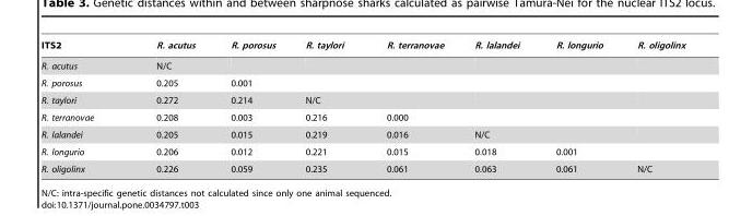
<table><thead><tr><td>ITS2</td><td>R. acutus</td><td>R. porosus</td><td>R. taylori</td><td>R. terranovae</td><td>R. lalandei</td><td>R. longurio</td><td>R. oligolinx</td></tr></thead><tbody><tr><td>R. acutus</td><td>N/C</td><td></td><td></td><td></td><td></td><td></td><td></td></tr><tr><td>R. porosus</td><td>0.205</td><td>0.001</td><td></td><td></td><td></td><td></td><td></td></tr><tr><td>R. taylori</td><td>0.272</td><td>0.214</td><td>N/C</td><td></td><td></td><td></td><td></td></tr><tr><td>R. terranovae</td><td>0.208</td><td>0.003</td><td>0.216</td><td>0.000</td><td></td><td></td><td></td></tr><tr><td>R. lalandei</td><td>0.205</td><td>0.015</td><td>0.219</td><td>0.016</td><td>N/C</td><td></td><td></td></tr><tr><td>R. longurio</td><td>0.206</td><td>0.012</td><td>0.221</td><td>0.015</td><td>0.018</td><td>0.001</td><td></td></tr><tr><td>R. oligolinx</td><td>0.226</td><td>0.059</td><td>0.235</td><td>0.061</td><td>0.063</td><td>0.061</td><td>N/C</td></tr></tbody></table>